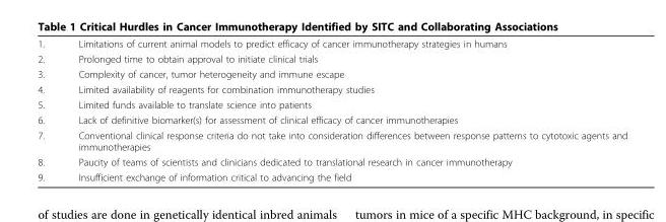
<table><tbody><tr><td>1.</td><td>Limitations of current animal models to predict efficacy of cancer immunotherapy strategies in humans</td></tr><tr><td>2.</td><td>Prolonged time to obtain approval to initiate clinical trials</td></tr><tr><td>3.</td><td>Complexity of cancer, tumor heterogeneity and immune escape</td></tr><tr><td>4.</td><td>Limited availability of reagents for combination immunotherapy studies</td></tr><tr><td>5.</td><td>Limited funds available to translate science into patients</td></tr><tr><td>6.</td><td>Lack of definitive biomarker(s) for assessment of clinical efficacy of cancer immunotherapies</td></tr><tr><td>7.</td><td>Conventional clinical response criteria do not take into consideration differences between response patterns to cytotoxic agents and immunotherapies</td></tr><tr><td>8.</td><td>Paucity of teams of scientists and clinicians dedicated to translational research in cancer immunotherapy</td></tr><tr><td>9.</td><td>Insufficient exchange of information critical to advancing the field</td></tr></tbody></table>